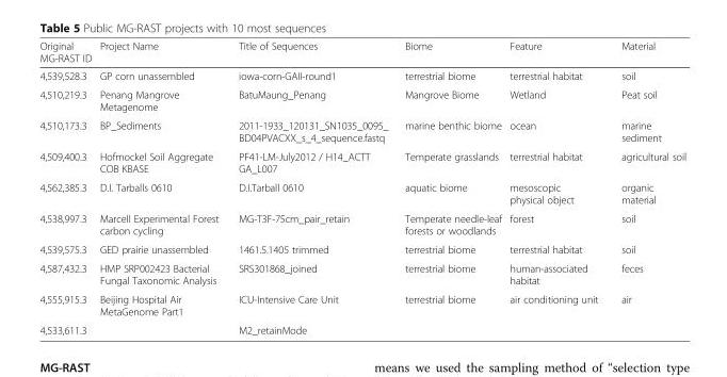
<table><thead><tr><td>Original MG-RAST ID</td><td>Project Name</td><td>Title of Sequences</td><td>Biome</td><td>Feature</td><td>Material</td></tr></thead><tbody><tr><td>4,539,528.3</td><td>GP corn unassembled</td><td>iowa-corn-GAII-round1</td><td>terrestrial biome</td><td>terrestrial habitat</td><td>soil</td></tr><tr><td>4,510,219.3</td><td>Penang Mangrove Metagenome</td><td>BatuMaung_Penang</td><td>Mangrove Biome</td><td>Wetland</td><td>Peat soil</td></tr><tr><td>4,510,173.3</td><td>BP_Sediments</td><td>2011-1933_120131_SN1035_0095_ BD04PVACXX_s_4_sequence.fastq</td><td>marine benthic biome</td><td>ocean</td><td>marine sediment</td></tr><tr><td>4,509,400.3</td><td>Hofmockel Soil Aggregate COB KBASE</td><td>PF41-LM-July2012 / H14_ACTT GA_L007</td><td>Temperate grasslands</td><td>terrestrial habitat</td><td>agricultural soil</td></tr><tr><td>4,562,385.3</td><td>D.I. Tarballs 0610</td><td>D.I.Tarball 0610</td><td>aquatic biome</td><td>mesoscopic physical object</td><td>organic material</td></tr><tr><td>4,538,997.3</td><td>Marcell Experimental Forest carbon cycling</td><td>MG-T3F-75cm_pair_retain</td><td>Temperate needle-leaf forests or woodlands</td><td>forest</td><td>soil</td></tr><tr><td>4,539,575.3</td><td>GED prairie unassembled</td><td>1461.5.1405 trimmed</td><td>terrestrial biome</td><td>terrestrial habitat</td><td>soil</td></tr><tr><td>4,587,432.3</td><td>HMP SRP002423 Bacterial Fungal Taxonomic Analysis</td><td>SRS301868_joined</td><td>terrestrial biome</td><td>human-associated habitat</td><td>feces</td></tr><tr><td>4,555,915.3</td><td>Beijing Hospital Air MetaGenome Part1</td><td>ICU-Intensive Care Unit</td><td>terrestrial biome</td><td>air conditioning unit</td><td>air</td></tr><tr><td>4,533,611.3</td><td></td><td>M2_retainMode</td><td></td><td></td><td></td></tr></tbody></table>